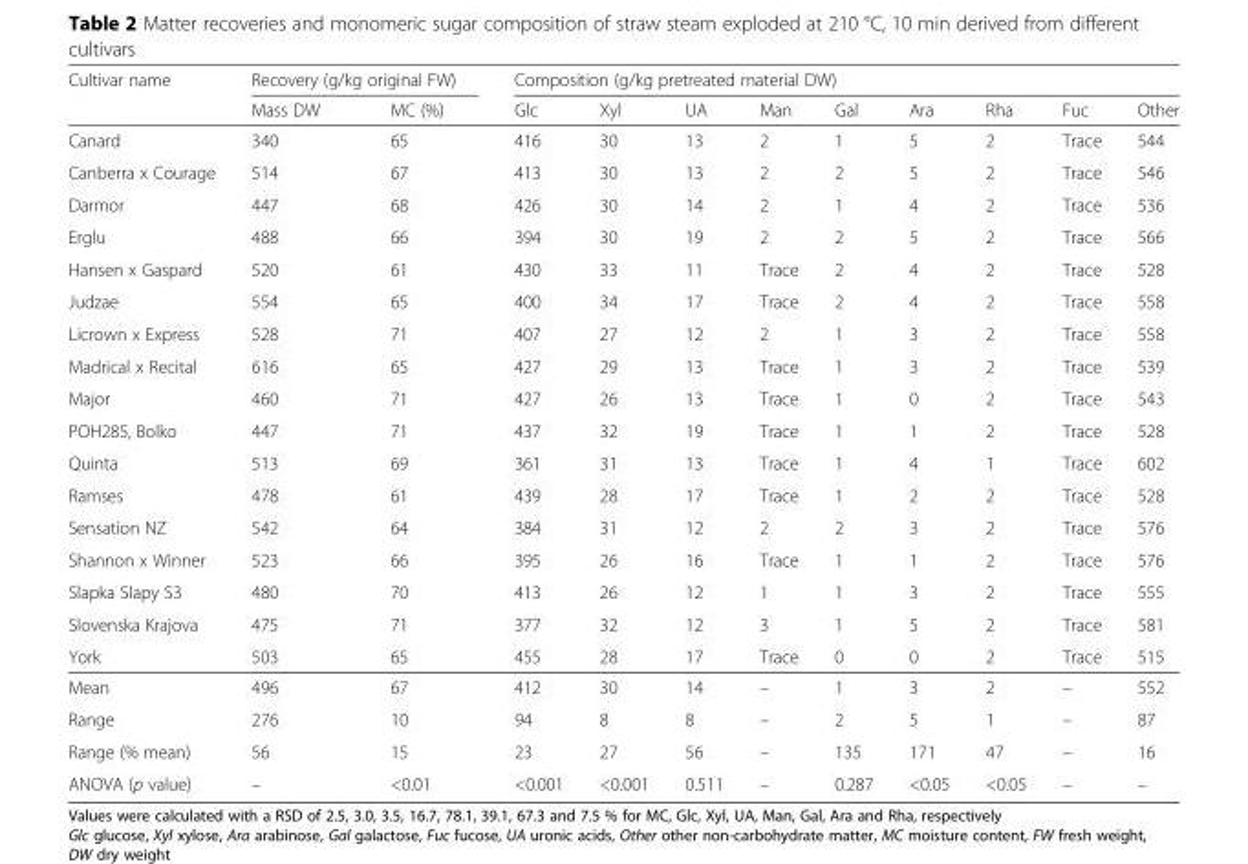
<table><thead><tr><td rowspan="2">Cultivar name</td><td colspan="2">Recovery (g/kg original FW)</td><td colspan="9">Composition (g/kg pretreated material DW)</td></tr><tr><td>Mass DW</td><td>MC (%)</td><td>Glc</td><td>Xyl</td><td>UA</td><td>Man</td><td>Gal</td><td>Ara</td><td>Rha</td><td>Fuc</td><td>Other</td></tr></thead><tbody><tr><td>Canard</td><td>340</td><td>65</td><td>416</td><td>30</td><td>13</td><td>2</td><td>1</td><td>5</td><td>2</td><td>Trace</td><td>544</td></tr><tr><td>Canberra x Courage</td><td>514</td><td>67</td><td>413</td><td>30</td><td>13</td><td>2</td><td>2</td><td>5</td><td>2</td><td>Trace</td><td>546</td></tr><tr><td>Darmor</td><td>447</td><td>68</td><td>426</td><td>30</td><td>14</td><td>2</td><td>1</td><td>4</td><td>2</td><td>Trace</td><td>536</td></tr><tr><td>Erglu</td><td>488</td><td>66</td><td>394</td><td>30</td><td>19</td><td>2</td><td>2</td><td>5</td><td>2</td><td>Trace</td><td>566</td></tr><tr><td>Hansen x Gaspard</td><td>520</td><td>61</td><td>430</td><td>33</td><td>11</td><td>Trace</td><td>2</td><td>4</td><td>2</td><td>Trace</td><td>528</td></tr><tr><td>Judzae</td><td>554</td><td>65</td><td>400</td><td>34</td><td>17</td><td>Trace</td><td>2</td><td>4</td><td>2</td><td>Trace</td><td>558</td></tr><tr><td>Licrown x Express</td><td>528</td><td>71</td><td>407</td><td>27</td><td>12</td><td>2</td><td>1</td><td>3</td><td>2</td><td>Trace</td><td>558</td></tr><tr><td>Madrical x Recital</td><td>616</td><td>65</td><td>427</td><td>29</td><td>13</td><td>Trace</td><td>1</td><td>3</td><td>2</td><td>Trace</td><td>539</td></tr><tr><td>Major</td><td>460</td><td>71</td><td>427</td><td>26</td><td>13</td><td>Trace</td><td>1</td><td>0</td><td>2</td><td>Trace</td><td>543</td></tr><tr><td>POH285, Bolko</td><td>447</td><td>71</td><td>437</td><td>32</td><td>19</td><td>Trace</td><td>1</td><td>1</td><td>2</td><td>Trace</td><td>528</td></tr><tr><td>Quinta</td><td>513</td><td>69</td><td>361</td><td>31</td><td>13</td><td>Trace</td><td>1</td><td>4</td><td>1</td><td>Trace</td><td>602</td></tr><tr><td>Ramses</td><td>478</td><td>61</td><td>439</td><td>28</td><td>17</td><td>Trace</td><td>1</td><td>2</td><td>2</td><td>Trace</td><td>528</td></tr><tr><td>Sensation NZ</td><td>542</td><td>64</td><td>384</td><td>31</td><td>12</td><td>2</td><td>2</td><td>3</td><td>2</td><td>Trace</td><td>576</td></tr><tr><td>Shannon x Winner</td><td>523</td><td>66</td><td>395</td><td>26</td><td>16</td><td>Trace</td><td>1</td><td>1</td><td>2</td><td>Trace</td><td>576</td></tr><tr><td>Slapka Slapy S3</td><td>480</td><td>70</td><td>413</td><td>26</td><td>12</td><td>1</td><td>1</td><td>3</td><td>2</td><td>Trace</td><td>555</td></tr><tr><td>Slovenska Krajova</td><td>475</td><td>71</td><td>377</td><td>32</td><td>12</td><td>3</td><td>1</td><td>5</td><td>2</td><td>Trace</td><td>581</td></tr><tr><td>York</td><td>503</td><td>65</td><td>455</td><td>28</td><td>17</td><td>Trace</td><td>0</td><td>0</td><td>2</td><td>Trace</td><td>515</td></tr><tr><td>Mean</td><td>496</td><td>67</td><td>412</td><td>30</td><td>14</td><td>–</td><td>1</td><td>3</td><td>2</td><td>–</td><td>552</td></tr><tr><td>Range</td><td>276</td><td>10</td><td>94</td><td>8</td><td>8</td><td>–</td><td>2</td><td>5</td><td>1</td><td>–</td><td>87</td></tr><tr><td>Range (% mean)</td><td>56</td><td>15</td><td>23</td><td>27</td><td>56</td><td>–</td><td>135</td><td>171</td><td>47</td><td>–</td><td>16</td></tr><tr><td>ANOVA (p value)</td><td>–</td><td>&lt;0.01</td><td>&lt;0.001</td><td>&lt;0.001</td><td>0.511</td><td>–</td><td>0.287</td><td>&lt;0.05</td><td>&lt;0.05</td><td>–</td><td>–</td></tr></tbody></table>